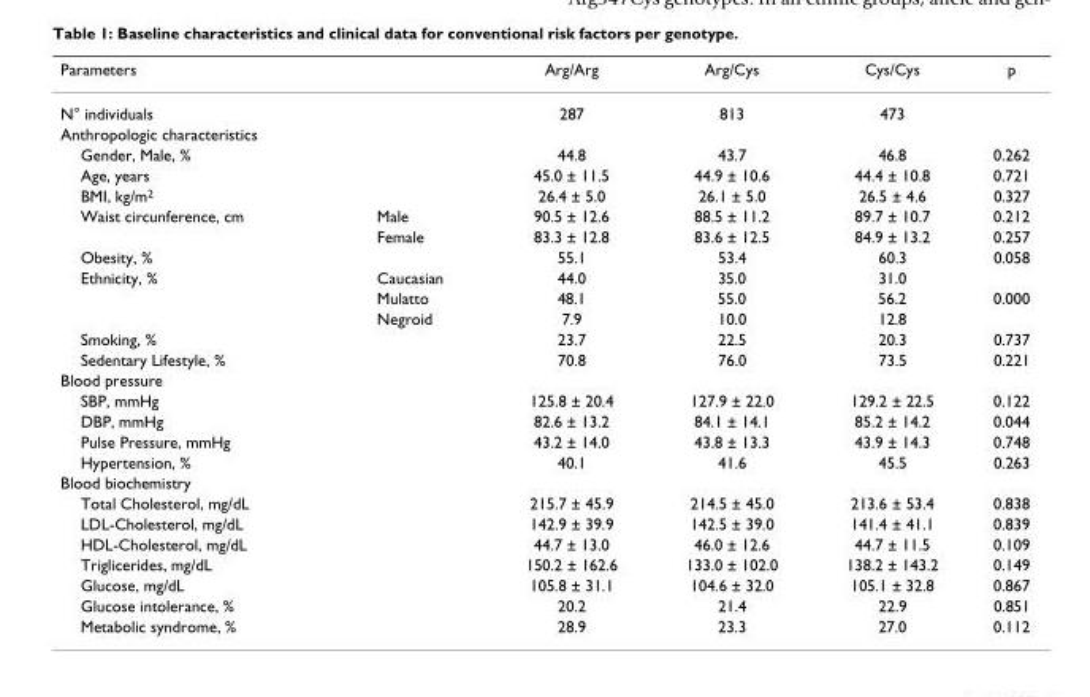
<table><thead><tr><td>Parameters</td><td></td><td>Arg/Arg</td><td>Arg/Cys</td><td>Cys/Cys</td><td>p</td></tr></thead><tbody><tr><td>N° individuals</td><td></td><td>287</td><td>813</td><td>473</td><td></td></tr><tr><td colspan="6">Anthropologic characteristics</td></tr><tr><td>Gender, Male, %</td><td></td><td>44.8</td><td>43.7</td><td>46.8</td><td>0.262</td></tr><tr><td>Age, years</td><td></td><td>45.0 ± 11.5</td><td>44.9 ± 10.6</td><td>44.4 ± 10.8</td><td>0.721</td></tr><tr><td>BMI, kg/m<sup>2</sup></td><td></td><td>26.4 ± 5.0</td><td>26.1 ± 5.0</td><td>26.5 ± 4.6</td><td>0.327</td></tr><tr><td rowspan="2">Waist circunference, cm</td><td>Male</td><td>90.5 ± 12.6</td><td>88.5 ± 11.2</td><td>89.7 ± 10.7</td><td>0.212</td></tr><tr><td>Female</td><td>83.3 ± 12.8</td><td>83.6 ± 12.5</td><td>84.9 ± 13.2</td><td>0.257</td></tr><tr><td>Obesity, %</td><td></td><td>55.1</td><td>53.4</td><td>60.3</td><td>0.058</td></tr><tr><td rowspan="3">Ethnicity, %</td><td>Caucasian</td><td>44.0</td><td>35.0</td><td>31.0</td><td></td></tr><tr><td>Mulatto</td><td>48.1</td><td>55.0</td><td>56.2</td><td>0.000</td></tr><tr><td>Negroid</td><td>7.9</td><td>10.0</td><td>12.8</td><td></td></tr><tr><td>Smoking, %</td><td></td><td>23.7</td><td>22.5</td><td>20.3</td><td>0.737</td></tr><tr><td>Sedentary Lifestyle, %</td><td></td><td>70.8</td><td>76.0</td><td>73.5</td><td>0.221</td></tr><tr><td colspan="6">Blood pressure</td></tr><tr><td>SBP, mmHg</td><td></td><td>125.8 ± 20.4</td><td>127.9 ± 22.0</td><td>129.2 ± 22.5</td><td>0.122</td></tr><tr><td>DBP, mmHg</td><td></td><td>82.6 ± 13.2</td><td>84.1 ± 14.1</td><td>85.2 ± 14.2</td><td>0.044</td></tr><tr><td>Pulse Pressure, mmHg</td><td></td><td>43.2 ± 14.0</td><td>43.8 ± 13.3</td><td>43.9 ± 14.3</td><td>0.748</td></tr><tr><td>Hypertension, %</td><td></td><td>40.1</td><td>41.6</td><td>45.5</td><td>0.263</td></tr><tr><td colspan="6">Blood biochemistry</td></tr><tr><td>Total Cholesterol, mg/dL</td><td></td><td>215.7 ± 45.9</td><td>214.5 ± 45.0</td><td>213.6 ± 53.4</td><td>0.838</td></tr><tr><td>LDL-Cholesterol, mg/dL</td><td></td><td>142.9 ± 39.9</td><td>142.5 ± 39.0</td><td>141.4 ± 41.1</td><td>0.839</td></tr><tr><td>HDL-Cholesterol, mg/dL</td><td></td><td>44.7 ± 13.0</td><td>46.0 ± 12.6</td><td>44.7 ± 11.5</td><td>0.109</td></tr><tr><td>Triglicerides, mg/dL</td><td></td><td>150.2 ± 162.6</td><td>133.0 ± 102.0</td><td>138.2 ± 143.2</td><td>0.149</td></tr><tr><td>Glucose, mg/dL</td><td></td><td>105.8 ± 31.1</td><td>104.6 ± 32.0</td><td>105.1 ± 32.8</td><td>0.867</td></tr><tr><td>Glucose intolerance, %</td><td></td><td>20.2</td><td>21.4</td><td>22.9</td><td>0.851</td></tr><tr><td>Metabolic syndrome, %</td><td></td><td>28.9</td><td>23.3</td><td>27.0</td><td>0.112</td></tr></tbody></table>